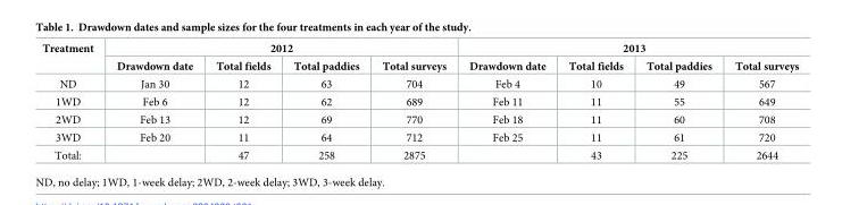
<table><thead><tr><td rowspan="2">Treatment</td><td colspan="4">2012</td><td colspan="4">2013</td></tr><tr><td>Drawdown date</td><td>Total fields</td><td>Total paddies</td><td>Total surveys</td><td>Drawdown date</td><td>Total fields</td><td>Total paddies</td><td>Total surveys</td></tr></thead><tbody><tr><td>ND</td><td>Jan 30</td><td>12</td><td>63</td><td>704</td><td>Feb 4</td><td>10</td><td>49</td><td>567</td></tr><tr><td>1WD</td><td>Feb 6</td><td>12</td><td>62</td><td>689</td><td>Feb 11</td><td>11</td><td>55</td><td>649</td></tr><tr><td>2WD</td><td>Feb 13</td><td>12</td><td>69</td><td>770</td><td>Feb 18</td><td>11</td><td>60</td><td>708</td></tr><tr><td>3WD</td><td>Feb 20</td><td>11</td><td>64</td><td>712</td><td>Feb 25</td><td>11</td><td>61</td><td>720</td></tr><tr><td>Total:</td><td></td><td>47</td><td>258</td><td>2875</td><td></td><td>43</td><td>225</td><td>2644</td></tr></tbody></table>